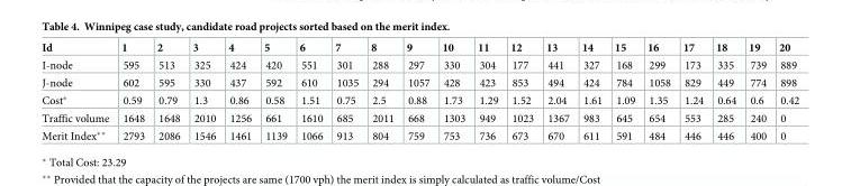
<table><thead><tr><td>Id</td><td>1</td><td>2</td><td>3</td><td>4</td><td>5</td><td>6</td><td>7</td><td>8</td><td>9</td><td>10</td><td>11</td><td>12</td><td>13</td><td>14</td><td>15</td><td>16</td><td>17</td><td>18</td><td>19</td><td>20</td></tr></thead><tbody><tr><td>I-node</td><td>595</td><td>513</td><td>325</td><td>424</td><td>420</td><td>551</td><td>301</td><td>288</td><td>297</td><td>330</td><td>304</td><td>177</td><td>441</td><td>327</td><td>168</td><td>299</td><td>173</td><td>335</td><td>739</td><td>889</td></tr><tr><td>J-node</td><td>602</td><td>595</td><td>330</td><td>437</td><td>592</td><td>610</td><td>1035</td><td>294</td><td>1057</td><td>428</td><td>423</td><td>853</td><td>494</td><td>424</td><td>784</td><td>1058</td><td>829</td><td>449</td><td>774</td><td>898</td></tr><tr><td>Cost*</td><td>0.59</td><td>0.79</td><td>1.3</td><td>0.86</td><td>0.58</td><td>1.51</td><td>0.75</td><td>2.5</td><td>0.88</td><td>1.73</td><td>1.29</td><td>1.52</td><td>2.04</td><td>1.61</td><td>1.09</td><td>1.35</td><td>1.24</td><td>0.64</td><td>0.6</td><td>0.42</td></tr><tr><td>Traffic volume</td><td>1648</td><td>1648</td><td>2010</td><td>1256</td><td>661</td><td>1610</td><td>685</td><td>2011</td><td>668</td><td>1303</td><td>949</td><td>1023</td><td>1367</td><td>983</td><td>645</td><td>654</td><td>553</td><td>285</td><td>240</td><td>0</td></tr><tr><td>Merit Index**</td><td>2793</td><td>2086</td><td>1546</td><td>1461</td><td>1139</td><td>1066</td><td>913</td><td>804</td><td>759</td><td>753</td><td>736</td><td>673</td><td>670</td><td>611</td><td>591</td><td>484</td><td>446</td><td>446</td><td>400</td><td>0</td></tr></tbody></table>